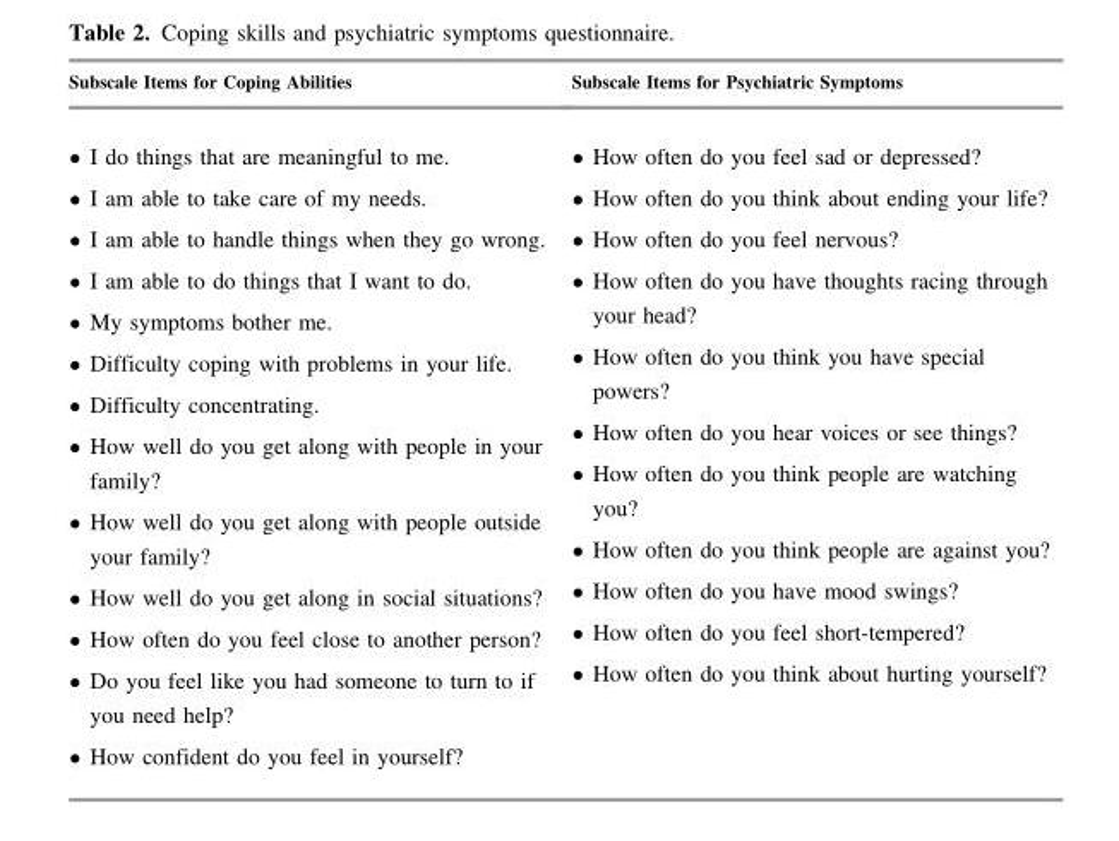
<table><thead><tr><td>Subscale Items for Coping Abilities</td><td>Subscale Items for Psychiatric Symptoms</td></tr></thead><tbody><tr><td>• I do things that are meaningful to me. • I am able to take care of my needs. • I am able to handle things when they go wrong. • I am able to do things that I want to do. • My symptoms bother me. • Difficulty coping with problems in your life. • Difficulty concentrating. • How well do you get along with people in your family? • How well do you get along with people outside your family? • How well do you get along in social situations? • How often do you feel close to another person? • Do you feel like you had someone to turn to if you need help? • How confident do you feel in yourself?</td><td>• How often do you feel sad or depressed? • How often do you think about ending your life? • How often do you feel nervous? • How often do you have thoughts racing through your head? • How often do you think you have special powers? • How often do you hear voices or see things? • How often do you think people are watching you? • How often do you think people are against you? • How often do you have mood swings? • How often do you feel short-tempered? • How often do you think about hurting yourself?</td></tr></tbody></table>